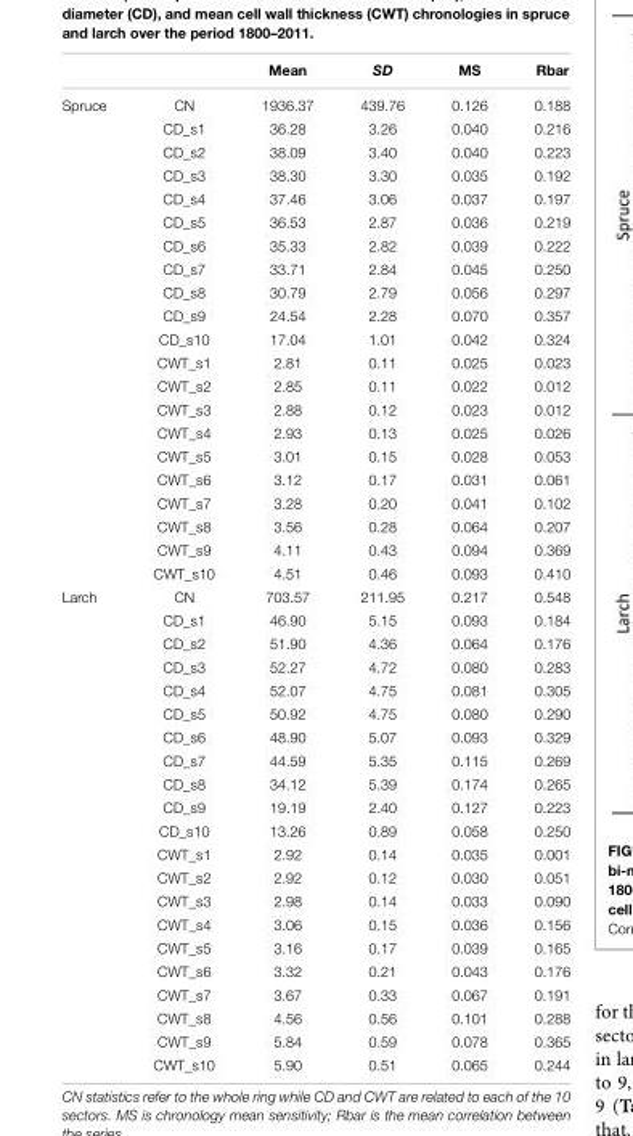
<table><thead><tr><td></td><td></td><td>Mean</td><td>SD</td><td>MS</td><td>Rbar</td></tr></thead><tbody><tr><td rowspan="21">Spruce</td><td>CN</td><td>1936.37</td><td>439.76</td><td>0.126</td><td>0.188</td></tr><tr><td>CD_s1</td><td>36.28</td><td>3.26</td><td>0.040</td><td>0.216</td></tr><tr><td>CD_s2</td><td>38.09</td><td>3.40</td><td>0.040</td><td>0.223</td></tr><tr><td>CD_s3</td><td>38.30</td><td>3.30</td><td>0.035</td><td>0.192</td></tr><tr><td>CD_s4</td><td>37.46</td><td>3.06</td><td>0.037</td><td>0.197</td></tr><tr><td>CD_s5</td><td>36.53</td><td>2.87</td><td>0.036</td><td>0.219</td></tr><tr><td>CD_s6</td><td>35.33</td><td>2.82</td><td>0.039</td><td>0.222</td></tr><tr><td>CD_s7</td><td>33.71</td><td>2.84</td><td>0.045</td><td>0.250</td></tr><tr><td>CD_s8</td><td>30.79</td><td>2.79</td><td>0.056</td><td>0.297</td></tr><tr><td>CD_s9</td><td>24.54</td><td>2.28</td><td>0.070</td><td>0.357</td></tr><tr><td>CD_s10</td><td>17.04</td><td>1.01</td><td>0.042</td><td>0.324</td></tr><tr><td>CWT_s1</td><td>2.81</td><td>0.11</td><td>0.025</td><td>0.023</td></tr><tr><td>CWT_s2</td><td>2.85</td><td>0.11</td><td>0.022</td><td>0.012</td></tr><tr><td>CWT_s3</td><td>2.88</td><td>0.12</td><td>0.023</td><td>0.012</td></tr><tr><td>CWT_s4</td><td>2.93</td><td>0.13</td><td>0.025</td><td>0.026</td></tr><tr><td>CWT_s5</td><td>3.01</td><td>0.15</td><td>0.028</td><td>0.053</td></tr><tr><td>CWT_s6</td><td>3.12</td><td>0.17</td><td>0.031</td><td>0.061</td></tr><tr><td>CWT_s7</td><td>3.28</td><td>0.20</td><td>0.041</td><td>0.102</td></tr><tr><td>CWT_s8</td><td>3.56</td><td>0.28</td><td>0.064</td><td>0.207</td></tr><tr><td>CWT_s9</td><td>4.11</td><td>0.43</td><td>0.094</td><td>0.369</td></tr><tr><td>CWT_s10</td><td>4.51</td><td>0.46</td><td>0.093</td><td>0.410</td></tr><tr><td rowspan="21">Larch</td><td>CN</td><td>703.57</td><td>211.95</td><td>0.217</td><td>0.548</td></tr><tr><td>CD_s1</td><td>46.90</td><td>5.15</td><td>0.093</td><td>0.184</td></tr><tr><td>CD_s2</td><td>51.90</td><td>4.36</td><td>0.064</td><td>0.176</td></tr><tr><td>CD_s3</td><td>52.27</td><td>4.72</td><td>0.080</td><td>0.283</td></tr><tr><td>CD_s4</td><td>52.07</td><td>4.75</td><td>0.081</td><td>0.305</td></tr><tr><td>CD_s5</td><td>50.92</td><td>4.75</td><td>0.080</td><td>0.290</td></tr><tr><td>CD_s6</td><td>48.90</td><td>5.07</td><td>0.093</td><td>0.329</td></tr><tr><td>CD_s7</td><td>44.59</td><td>5.35</td><td>0.115</td><td>0.269</td></tr><tr><td>CD_s8</td><td>34.12</td><td>5.39</td><td>0.174</td><td>0.265</td></tr><tr><td>CD_s9</td><td>19.19</td><td>2.40</td><td>0.127</td><td>0.223</td></tr><tr><td>CD_s10</td><td>13.26</td><td>0.89</td><td>0.058</td><td>0.250</td></tr><tr><td>CWT_s1</td><td>2.92</td><td>0.14</td><td>0.035</td><td>0.001</td></tr><tr><td>CWT_s2</td><td>2.92</td><td>0.12</td><td>0.030</td><td>0.051</td></tr><tr><td>CWT_s3</td><td>2.98</td><td>0.14</td><td>0.033</td><td>0.090</td></tr><tr><td>CWT_s4</td><td>3.06</td><td>0.15</td><td>0.036</td><td>0.156</td></tr><tr><td>CWT_s5</td><td>3.16</td><td>0.17</td><td>0.039</td><td>0.165</td></tr><tr><td>CWT_s6</td><td>3.32</td><td>0.21</td><td>0.043</td><td>0.176</td></tr><tr><td>CWT_s7</td><td>3.67</td><td>0.33</td><td>0.067</td><td>0.191</td></tr><tr><td>CWT_s8</td><td>4.56</td><td>0.56</td><td>0.101</td><td>0.288</td></tr><tr><td>CWT_s9</td><td>5.84</td><td>0.59</td><td>0.078</td><td>0.365</td></tr><tr><td>CWT_s10</td><td>5.90</td><td>0.51</td><td>0.065</td><td>0.244</td></tr></tbody></table>